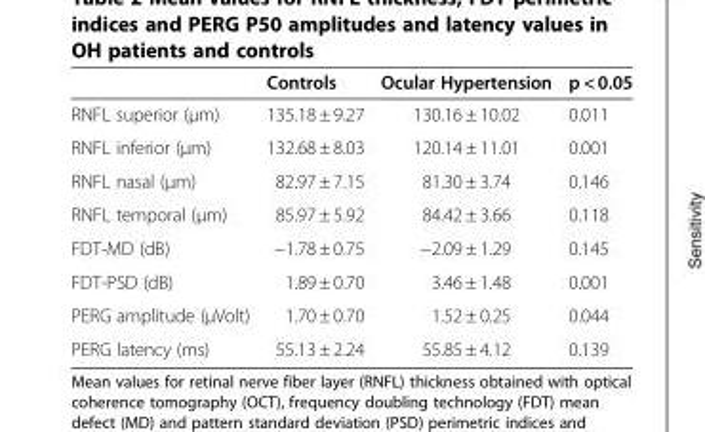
<table><thead><tr><td></td><td>Controls</td><td>Ocular Hypertension</td><td>p &lt; 0.05</td></tr></thead><tbody><tr><td>RNFL superior (μm)</td><td>135.18 ± 9.27</td><td>130.16 ± 10.02</td><td>0.011</td></tr><tr><td>RNFL inferior (μm)</td><td>132.68 ± 8.03</td><td>120.14 ± 11.01</td><td>0.001</td></tr><tr><td>RNFL nasal (μm)</td><td>82.97 ± 7.15</td><td>81.30 ± 3.74</td><td>0.146</td></tr><tr><td>RNFL temporal (μm)</td><td>85.97 ± 5.92</td><td>84.42 ± 3.66</td><td>0.118</td></tr><tr><td>FDT-MD (dB)</td><td>−1.78 ± 0.75</td><td>−2.09 ± 1.29</td><td>0.145</td></tr><tr><td>FDT-PSD (dB)</td><td>1.89 ± 0.70</td><td>3.46 ± 1.48</td><td>0.001</td></tr><tr><td>PERG amplitude (μVolt)</td><td>1.70 ± 0.70</td><td>1.52 ± 0.25</td><td>0.044</td></tr><tr><td>PERG latency (ms)</td><td>55.13 ± 2.24</td><td>55.85 ± 4.12</td><td>0.139</td></tr></tbody></table>